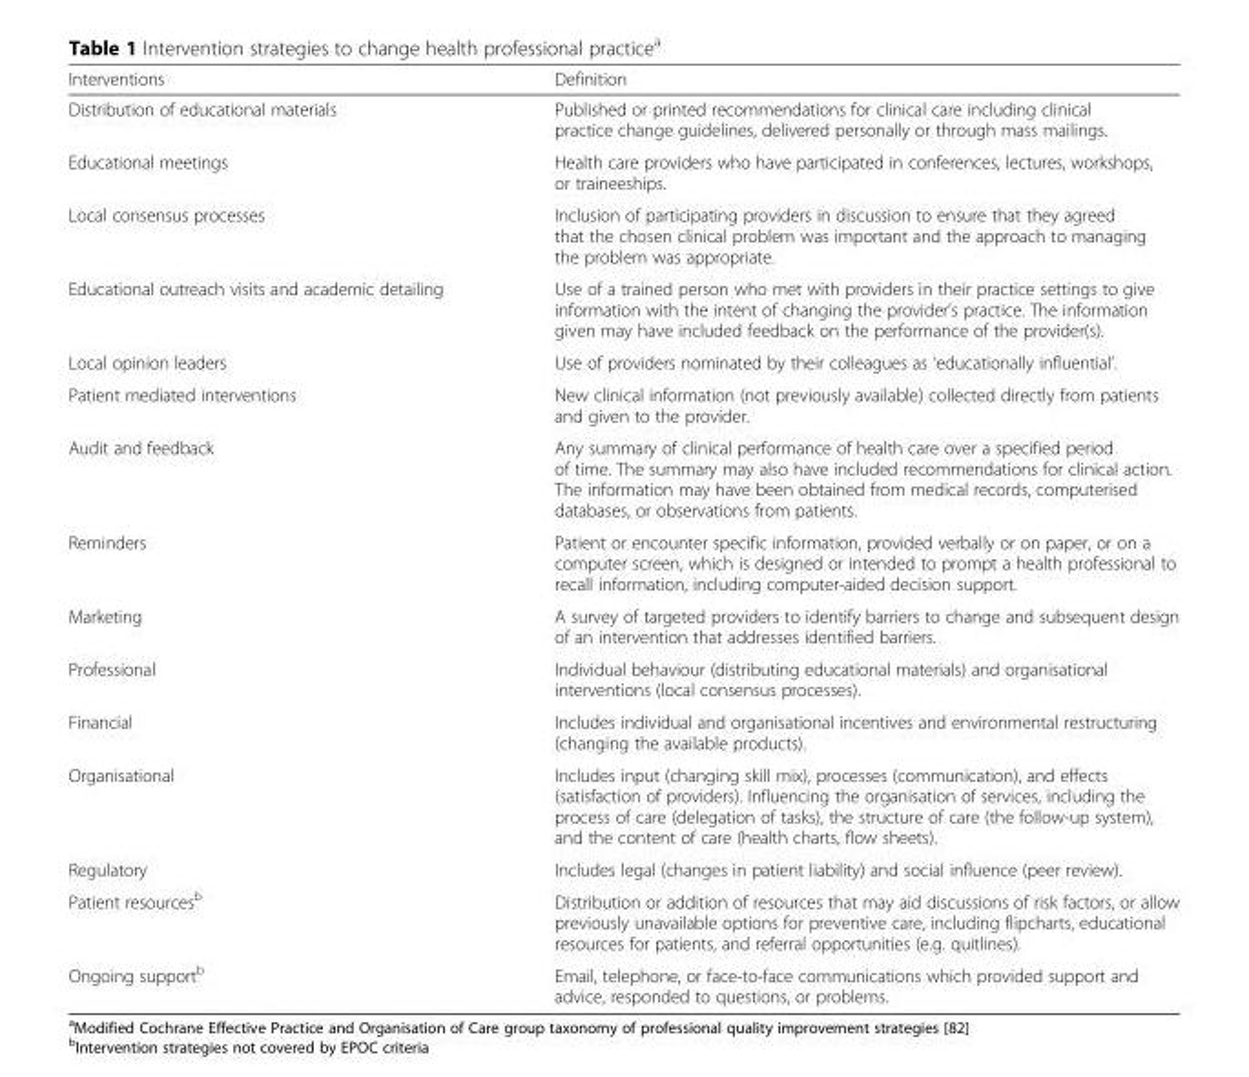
<table><thead><tr><td>Interventions</td><td>Definition</td></tr></thead><tbody><tr><td>Distribution of educational materials</td><td>Published or printed recommendations for clinical care including clinical practice change guidelines, delivered personally or through mass mailings.</td></tr><tr><td>Educational meetings</td><td>Health care providers who have participated in conferences, lectures, workshops, or traineeships.</td></tr><tr><td>Local consensus processes</td><td>Inclusion of participating providers in discussion to ensure that they agreed that the chosen clinical problem was important and the approach to managing the problem was appropriate.</td></tr><tr><td>Educational outreach visits and academic detailing</td><td>Use of a trained person who met with providers in their practice settings to give information with the intent of changing the provider’s practice. The information given may have included feedback on the performance of the provider(s).</td></tr><tr><td>Local opinion leaders</td><td>Use of providers nominated by their colleagues as ‘educationally influential’.</td></tr><tr><td>Patient mediated interventions</td><td>New clinical information (not previously available) collected directly from patients and given to the provider.</td></tr><tr><td>Audit and feedback</td><td>Any summary of clinical performance of health care over a specified period of time. The summary may also have included recommendations for clinical action. The information may have been obtained from medical records, computerised databases, or observations from patients.</td></tr><tr><td>Reminders</td><td>Patient or encounter specific information, provided verbally or on paper, or on a computer screen, which is designed or intended to prompt a health professional to recall information, including computer-aided decision support.</td></tr><tr><td>Marketing</td><td>A survey of targeted providers to identify barriers to change and subsequent design of an intervention that addresses identified barriers.</td></tr><tr><td>Professional</td><td>Individual behaviour (distributing educational materials) and organisational interventions (local consensus processes).</td></tr><tr><td>Financial</td><td>Includes individual and organisational incentives and environmental restructuring (changing the available products).</td></tr><tr><td>Organisational</td><td>Includes input (changing skill mix), processes (communication), and effects (satisfaction of providers). Influencing the organisation of services, including the process of care (delegation of tasks), the structure of care (the follow-up system), and the content of care (health charts, flow sheets).</td></tr><tr><td>Regulatory</td><td>Includes legal (changes in patient liability) and social influence (peer review).</td></tr><tr><td>Patient resources<sup>b</sup></td><td>Distribution or addition of resources that may aid discussions of risk factors, or allow previously unavailable options for preventive care, including flipcharts, educational resources for patients, and referral opportunities (e.g. quitlines).</td></tr><tr><td>Ongoing support<sup>b</sup></td><td>Email, telephone, or face-to-face communications which provided support and advice, responded to questions, or problems.</td></tr></tbody></table>